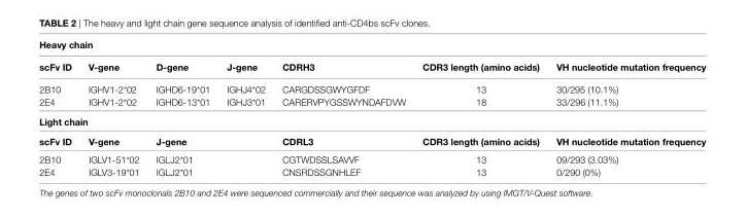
<table><thead><tr><td colspan="7">heavy chain</td></tr><tr><td>scFv iD</td><td>V-gene</td><td>D-gene</td><td>J-gene</td><td>cDrh3</td><td>cDr3 length (amino acids)</td><td>Vh nucleotide mutation frequency</td></tr></thead><tbody><tr><td>2B10</td><td>IGHV1-2*02</td><td>IGHD6-19*01</td><td>IGHJ4*02</td><td>CARGDSSGWYGFDF</td><td>13</td><td>30/295 (10.1%)</td></tr><tr><td>2E4</td><td>IGHV1-2*02</td><td>IGHD6-13*01</td><td>IGHJ3*01</td><td>CARERVPYGSSWYNDAFDVW</td><td>18</td><td>33/296 (11.1%)</td></tr><tr><td colspan="7">light chain</td></tr><tr><td>scFv iD</td><td>V-gene</td><td colspan="2">J-gene</td><td>cDrl3</td><td>cDr3 length (amino acids)</td><td>Vh nucleotide mutation frequency</td></tr><tr><td>2B10</td><td>IGLV1-51*02</td><td colspan="2">IGLJ2*01</td><td>CGTWDSSLSAVVF</td><td>13</td><td>09/293 (3.03%)</td></tr><tr><td>2E4</td><td>IGLV3-19*01</td><td colspan="2">IGLJ2*01</td><td>CNSRDSSGNHLEF</td><td>13</td><td>0/290 (0%)</td></tr></tbody></table>